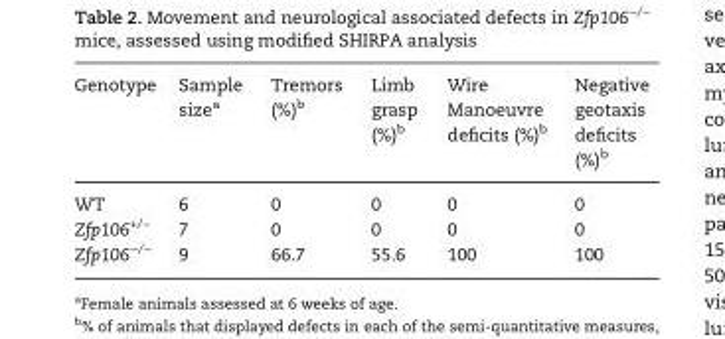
<table><thead><tr><td>Genotype</td><td>Sample size<sup>a</sup></td><td>Tremors (%)<sup>b</sup></td><td>Limb grasp (%)<sup>b</sup></td><td>Wire Manoeuvre deficits (%)<sup>b</sup></td><td>Negative geotaxis deficits (%)<sup>b</sup></td></tr></thead><tbody><tr><td>WT</td><td>6</td><td>0</td><td>0</td><td>0</td><td>0</td></tr><tr><td>Zfp106<sup>+/−</sup></td><td>7</td><td>0</td><td>0</td><td>0</td><td>0</td></tr><tr><td>Zfp106<sup>−/−</sup></td><td>9</td><td>66.7</td><td>55.6</td><td>100</td><td>100</td></tr></tbody></table>